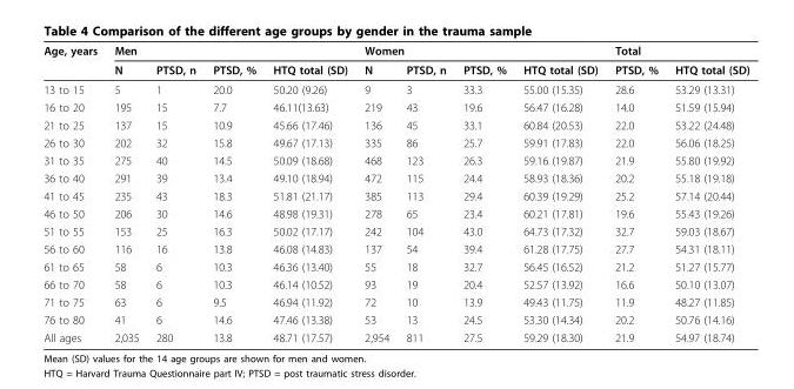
<table><thead><tr><td rowspan="2">Age, years</td><td colspan="4">Men</td><td colspan="4">Women</td><td colspan="2">Total</td></tr><tr><td>N</td><td>PTSD, n</td><td>PTSD, %</td><td>HTQ total (SD)</td><td>N</td><td>PTSD, n</td><td>PTSD, %</td><td>HTQ total (SD)</td><td>PTSD, %</td><td>HTQ total (SD)</td></tr></thead><tbody><tr><td>13 to 15</td><td>5</td><td>1</td><td>20.0</td><td>50.20 (9.26)</td><td>9</td><td>3</td><td>33.3</td><td>55.00 (15.35)</td><td>28.6</td><td>53.29 (13.31)</td></tr><tr><td>16 to 20</td><td>195</td><td>15</td><td>7.7</td><td>46.11(13.63)</td><td>219</td><td>43</td><td>19.6</td><td>56.47 (16.28)</td><td>14.0</td><td>51.59 (15.94)</td></tr><tr><td>21 to 25</td><td>137</td><td>15</td><td>10.9</td><td>45.66 (17.46)</td><td>136</td><td>45</td><td>33.1</td><td>60.84 (20.53)</td><td>22.0</td><td>53.22 (24.48)</td></tr><tr><td>26 to 30</td><td>202</td><td>32</td><td>15.8</td><td>49.67 (17.13)</td><td>335</td><td>86</td><td>25.7</td><td>59.91 (17.83)</td><td>22.0</td><td>56.06 (18.25)</td></tr><tr><td>31 to 35</td><td>275</td><td>40</td><td>14.5</td><td>50.09 (18.68)</td><td>468</td><td>123</td><td>26.3</td><td>59.16 (19.87)</td><td>21.9</td><td>55.80 (19.92)</td></tr><tr><td>36 to 40</td><td>291</td><td>39</td><td>13.4</td><td>49.10 (18.94)</td><td>472</td><td>115</td><td>24.4</td><td>58.93 (18.36)</td><td>20.2</td><td>55.18 (19.18)</td></tr><tr><td>41 to 45</td><td>235</td><td>43</td><td>18.3</td><td>51.81 (21.17)</td><td>385</td><td>113</td><td>29.4</td><td>60.39 (19.29)</td><td>25.2</td><td>57.14 (20.44)</td></tr><tr><td>46 to 50</td><td>206</td><td>30</td><td>14.6</td><td>48.98 (19.31)</td><td>278</td><td>65</td><td>23.4</td><td>60.21 (17.81)</td><td>19.6</td><td>55.43 (19.26)</td></tr><tr><td>51 to 55</td><td>153</td><td>25</td><td>16.3</td><td>50.02 (17.17)</td><td>242</td><td>104</td><td>43.0</td><td>64.73 (17.32)</td><td>32.7</td><td>59.03 (18.67)</td></tr><tr><td>56 to 60</td><td>116</td><td>16</td><td>13.8</td><td>46.08 (14.83)</td><td>137</td><td>54</td><td>39.4</td><td>61.28 (17.75)</td><td>27.7</td><td>54.31 (18.11)</td></tr><tr><td>61 to 65</td><td>58</td><td>6</td><td>10.3</td><td>46.36 (13.40)</td><td>55</td><td>18</td><td>32.7</td><td>56.45 (16.52)</td><td>21.2</td><td>51.27 (15.77)</td></tr><tr><td>66 to 70</td><td>58</td><td>6</td><td>10.3</td><td>46.14 (10.52)</td><td>93</td><td>19</td><td>20.4</td><td>52.57 (13.92)</td><td>16.6</td><td>50.10 (13.07)</td></tr><tr><td>71 to 75</td><td>63</td><td>6</td><td>9.5</td><td>46.94 (11.92)</td><td>72</td><td>10</td><td>13.9</td><td>49.43 (11.75)</td><td>11.9</td><td>48.27 (11.85)</td></tr><tr><td>76 to 80</td><td>41</td><td>6</td><td>14.6</td><td>47.46 (13.38)</td><td>53</td><td>13</td><td>24.5</td><td>53.30 (14.34)</td><td>20.2</td><td>50.76 (14.16)</td></tr><tr><td>All ages</td><td>2,035</td><td>280</td><td>13.8</td><td>48.71 (17.57)</td><td>2,954</td><td>811</td><td>27.5</td><td>59.29 (18.30)</td><td>21.9</td><td>54.97 (18.74)</td></tr></tbody></table>